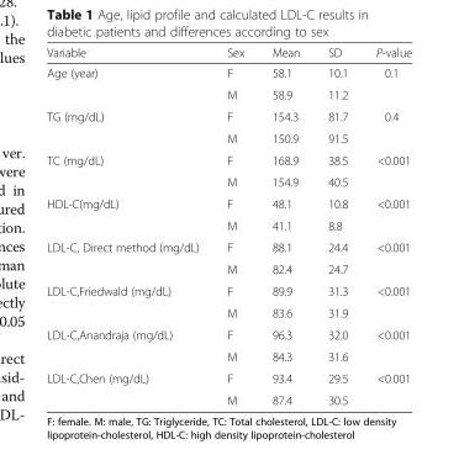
<table><thead><tr><td>Variable</td><td>Sex</td><td>Mean</td><td>SD</td><td>P-value</td></tr></thead><tbody><tr><td rowspan="2">Age (year)</td><td>F</td><td>58.1</td><td>10.1</td><td rowspan="2">0.1</td></tr><tr><td>M</td><td>58.9</td><td>11.2</td></tr><tr><td rowspan="2">TG (mg/dL)</td><td>F</td><td>154.3</td><td>81.7</td><td rowspan="2">0.4</td></tr><tr><td>M</td><td>150.9</td><td>91.5</td></tr><tr><td rowspan="2">TC (mg/dL)</td><td>F</td><td>168.9</td><td>38.5</td><td rowspan="2">&lt;0.001</td></tr><tr><td>M</td><td>154.9</td><td>40.5</td></tr><tr><td rowspan="2">HDL-C(mg/dL)</td><td>F</td><td>48.1</td><td>10.8</td><td rowspan="2">&lt;0.001</td></tr><tr><td>M</td><td>41.1</td><td>8.8</td></tr><tr><td rowspan="2">LDL-C, Direct method (mg/dL)</td><td>F</td><td>88.1</td><td>24.4</td><td rowspan="2">&lt;0.001</td></tr><tr><td>M</td><td>82.4</td><td>24.7</td></tr><tr><td rowspan="2">LDL-C,Friedwald (mg/dL)</td><td>F</td><td>89.9</td><td>31.3</td><td rowspan="2">&lt;0.001</td></tr><tr><td>M</td><td>83.6</td><td>31.9</td></tr><tr><td rowspan="2">LDL-C,Anandraja (mg/dL)</td><td>F</td><td>96.3</td><td>32.0</td><td rowspan="2">&lt;0.001</td></tr><tr><td>M</td><td>84.3</td><td>31.6</td></tr><tr><td rowspan="2">LDL-C,Chen (mg/dL)</td><td>F</td><td>93.4</td><td>29.5</td><td rowspan="2">&lt;0.001</td></tr><tr><td>M</td><td>87.4</td><td>30.5</td></tr></tbody></table>